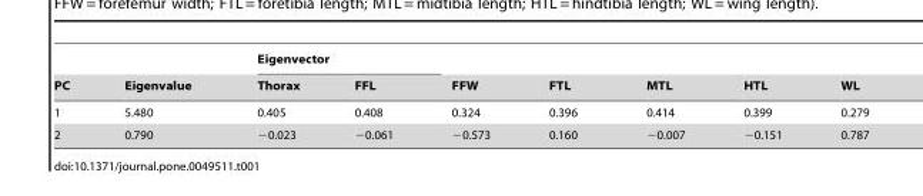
<table><thead><tr><td rowspan="2">PC</td><td rowspan="2">Eigenvalue</td><td colspan="2">Eigenvector</td><td rowspan="2">FFW</td><td rowspan="2">FTL</td><td rowspan="2">MTL</td><td rowspan="2">HTL</td><td rowspan="2">WL</td></tr><tr><td>Thorax</td><td>FFL</td></tr></thead><tbody><tr><td>1</td><td>5.480</td><td>0.405</td><td>0.408</td><td>0.324</td><td>0.396</td><td>0.414</td><td>0.399</td><td>0.279</td></tr><tr><td>2</td><td>0.790</td><td>−0.023</td><td>−0.061</td><td>−0.573</td><td>0.160</td><td>−0.007</td><td>−0.151</td><td>0.787</td></tr></tbody></table>